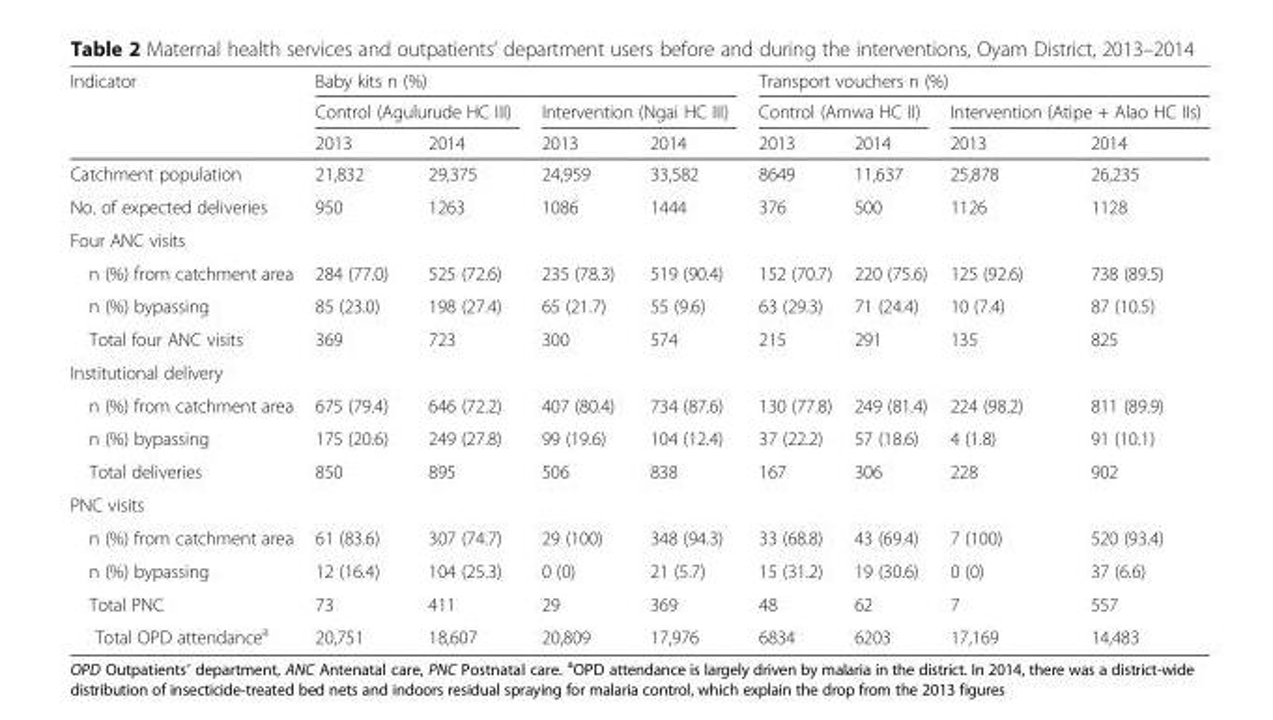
<table><thead><tr><td rowspan="3">Indicator</td><td colspan="4">Baby kits n (%)</td><td colspan="4">Transport vouchers n (%)</td></tr><tr><td colspan="2">Control (Agulurude HC III)</td><td colspan="2">Intervention (Ngai HC III)</td><td colspan="2">Control (Amwa HC II)</td><td colspan="2">Intervention (Atipe + Alao HC IIs)</td></tr><tr><td>2013</td><td>2014</td><td>2013</td><td>2014</td><td>2013</td><td>2014</td><td>2013</td><td>2014</td></tr></thead><tbody><tr><td>Catchment population</td><td>21,832</td><td>29,375</td><td>24,959</td><td>33,582</td><td>8649</td><td>11,637</td><td>25,878</td><td>26,235</td></tr><tr><td>No. of expected deliveries</td><td>950</td><td>1263</td><td>1086</td><td>1444</td><td>376</td><td>500</td><td>1126</td><td>1128</td></tr><tr><td colspan="9">Four ANC visits</td></tr><tr><td>n (%) from catchment area</td><td>284 (77.0)</td><td>525 (72.6)</td><td>235 (78.3)</td><td>519 (90.4)</td><td>152 (70.7)</td><td>220 (75.6)</td><td>125 (92.6)</td><td>738 (89.5)</td></tr><tr><td>n (%) bypassing</td><td>85 (23.0)</td><td>198 (27.4)</td><td>65 (21.7)</td><td>55 (9.6)</td><td>63 (29.3)</td><td>71 (24.4)</td><td>10 (7.4)</td><td>87 (10.5)</td></tr><tr><td>Total four ANC visits</td><td>369</td><td>723</td><td>300</td><td>574</td><td>215</td><td>291</td><td>135</td><td>825</td></tr><tr><td colspan="9">Institutional delivery</td></tr><tr><td>n (%) from catchment area</td><td>675 (79.4)</td><td>646 (72.2)</td><td>407 (80.4)</td><td>734 (87.6)</td><td>130 (77.8)</td><td>249 (81.4)</td><td>224 (98.2)</td><td>811 (89.9)</td></tr><tr><td>n (%) bypassing</td><td>175 (20.6)</td><td>249 (27.8)</td><td>99 (19.6)</td><td>104 (12.4)</td><td>37 (22.2)</td><td>57 (18.6)</td><td>4 (1.8)</td><td>91 (10.1)</td></tr><tr><td>Total deliveries</td><td>850</td><td>895</td><td>506</td><td>838</td><td>167</td><td>306</td><td>228</td><td>902</td></tr><tr><td colspan="9">PNC visits</td></tr><tr><td>n (%) from catchment area</td><td>61 (83.6)</td><td>307 (74.7)</td><td>29 (100)</td><td>348 (94.3)</td><td>33 (68.8)</td><td>43 (69.4)</td><td>7 (100)</td><td>520 (93.4)</td></tr><tr><td>n (%) bypassing</td><td>12 (16.4)</td><td>104 (25.3)</td><td>0 (0)</td><td>21 (5.7)</td><td>15 (31.2)</td><td>19 (30.6)</td><td>0 (0)</td><td>37 (6.6)</td></tr><tr><td>Total PNC</td><td>73</td><td>411</td><td>29</td><td>369</td><td>48</td><td>62</td><td>7</td><td>557</td></tr><tr><td>Total OPD attendance<sup>a</sup></td><td>20,751</td><td>18,607</td><td>20,809</td><td>17,976</td><td>6834</td><td>6203</td><td>17,169</td><td>14,483</td></tr></tbody></table>